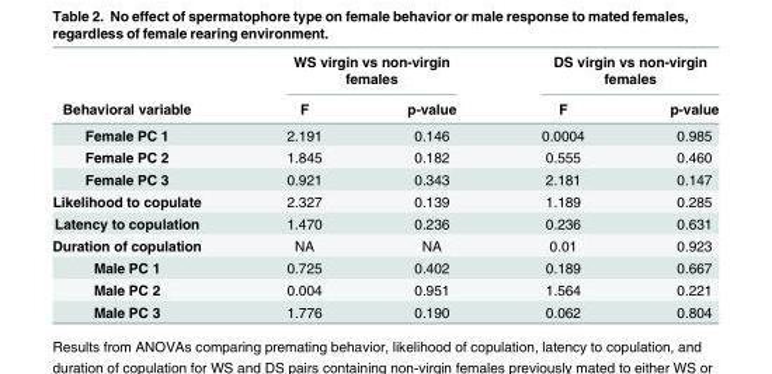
<table><thead><tr><td rowspan="2">Behavioral variable</td><td colspan="2">WS virgin vs non-virgin females</td><td colspan="2">DS virgin vs non-virgin females</td></tr><tr><td>F</td><td>p-value</td><td>F</td><td>p-value</td></tr></thead><tbody><tr><td>Female PC 1</td><td>2.191</td><td>0.146</td><td>0.0004</td><td>0.985</td></tr><tr><td>Female PC 2</td><td>1.845</td><td>0.182</td><td>0.555</td><td>0.460</td></tr><tr><td>Female PC 3</td><td>0.921</td><td>0.343</td><td>2.181</td><td>0.147</td></tr><tr><td>Likelihood to copulate</td><td>2.327</td><td>0.139</td><td>1.189</td><td>0.285</td></tr><tr><td>Latency to copulation</td><td>1.470</td><td>0.236</td><td>0.236</td><td>0.631</td></tr><tr><td>Duration of copulation</td><td>NA</td><td>NA</td><td>0.01</td><td>0.923</td></tr><tr><td>Male PC 1</td><td>0.725</td><td>0.402</td><td>0.189</td><td>0.667</td></tr><tr><td>Male PC 2</td><td>0.004</td><td>0.951</td><td>1.564</td><td>0.221</td></tr><tr><td>Male PC 3</td><td>1.776</td><td>0.190</td><td>0.062</td><td>0.804</td></tr></tbody></table>